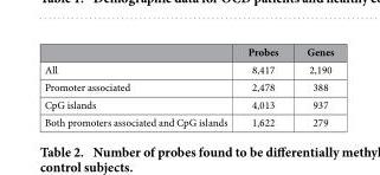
<table><thead><tr><td></td><td>Probes</td><td>Genes</td></tr></thead><tbody><tr><td>All</td><td>8,417</td><td>2,190</td></tr><tr><td>Promoter associated</td><td>2,478</td><td>388</td></tr><tr><td>CpG islands</td><td>4,013</td><td>937</td></tr><tr><td>Both promoters associated and CpG islands</td><td>1,622</td><td>279</td></tr></tbody></table>